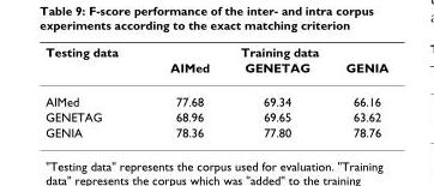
<table><thead><tr><td rowspan="2">Testing data</td><td colspan="3">Training data</td></tr><tr><td>AIMed</td><td>GENETAG</td><td>GENIA</td></tr></thead><tbody><tr><td>AIMed</td><td>77.68</td><td>69.34</td><td>66.16</td></tr><tr><td>GENETAG</td><td>68.96</td><td>69.65</td><td>63.62</td></tr><tr><td>GENIA</td><td>78.36</td><td>77.80</td><td>78.76</td></tr></tbody></table>